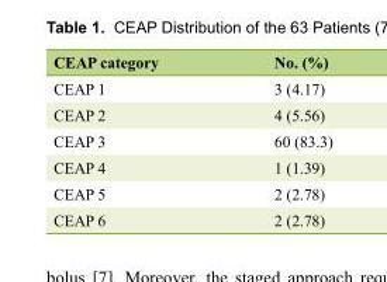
<table><thead><tr><td>CEAP category</td><td>No. (%)</td></tr></thead><tbody><tr><td>CEAP 1</td><td>3 (4.17)</td></tr><tr><td>CEAP 2</td><td>4 (5.56)</td></tr><tr><td>CEAP 3</td><td>60 (83.3)</td></tr><tr><td>CEAP 4</td><td>1 (1.39)</td></tr><tr><td>CEAP 5</td><td>2 (2.78)</td></tr><tr><td>CEAP 6</td><td>2 (2.78)</td></tr></tbody></table>